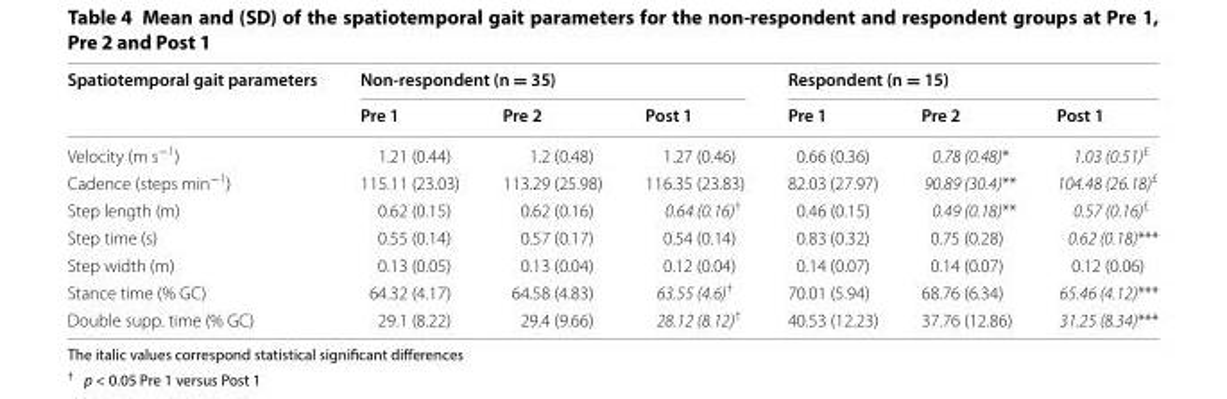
<table><thead><tr><td rowspan="2">Spatiotemporal gait parameters</td><td colspan="3">Non-respondent (n = 35)</td><td colspan="3">Respondent (n = 15)</td></tr><tr><td>Pre 1</td><td>Pre 2</td><td>Post 1</td><td>Pre 1</td><td>Pre 2</td><td>Post 1</td></tr></thead><tbody><tr><td>Velocity (m s<sup>−1</sup>)</td><td>1.21 (0.44)</td><td>1.2 (0.48)</td><td>1.27 (0.46)</td><td>0.66 (0.36)</td><td>0.78 (0.48)*</td><td>1.03 (0.51)<sup>£</sup></td></tr><tr><td>Cadence (steps min<sup>−1</sup>)</td><td>115.11 (23.03)</td><td>113.29 (25.98)</td><td>116.35 (23.83)</td><td>82.03 (27.97)</td><td>90.89 (30.4)**</td><td>104.48 (26.18)<sup>£</sup></td></tr><tr><td>Step length (m)</td><td>0.62 (0.15)</td><td>0.62 (0.16)</td><td>0.64 (0.16)<sup>†</sup></td><td>0.46 (0.15)</td><td>0.49 (0.18)**</td><td>0.57 (0.16)<sup>£</sup></td></tr><tr><td>Step time (s)</td><td>0.55 (0.14)</td><td>0.57 (0.17)</td><td>0.54 (0.14)</td><td>0.83 (0.32)</td><td>0.75 (0.28)</td><td>0.62 (0.18)***</td></tr><tr><td>Step width (m)</td><td>0.13 (0.05)</td><td>0.13 (0.04)</td><td>0.12 (0.04)</td><td>0.14 (0.07)</td><td>0.14 (0.07)</td><td>0.12 (0.06)</td></tr><tr><td>Stance time (% GC)</td><td>64.32 (4.17)</td><td>64.58 (4.83)</td><td>63.55 (4.6)<sup>†</sup></td><td>70.01 (5.94)</td><td>68.76 (6.34)</td><td>65.46 (4.12)***</td></tr><tr><td>Double supp. time (% GC)</td><td>29.1 (8.22)</td><td>29.4 (9.66)</td><td>28.12 (8.12)<sup>†</sup></td><td>40.53 (12.23)</td><td>37.76 (12.86)</td><td>31.25 (8.34)***</td></tr></tbody></table>